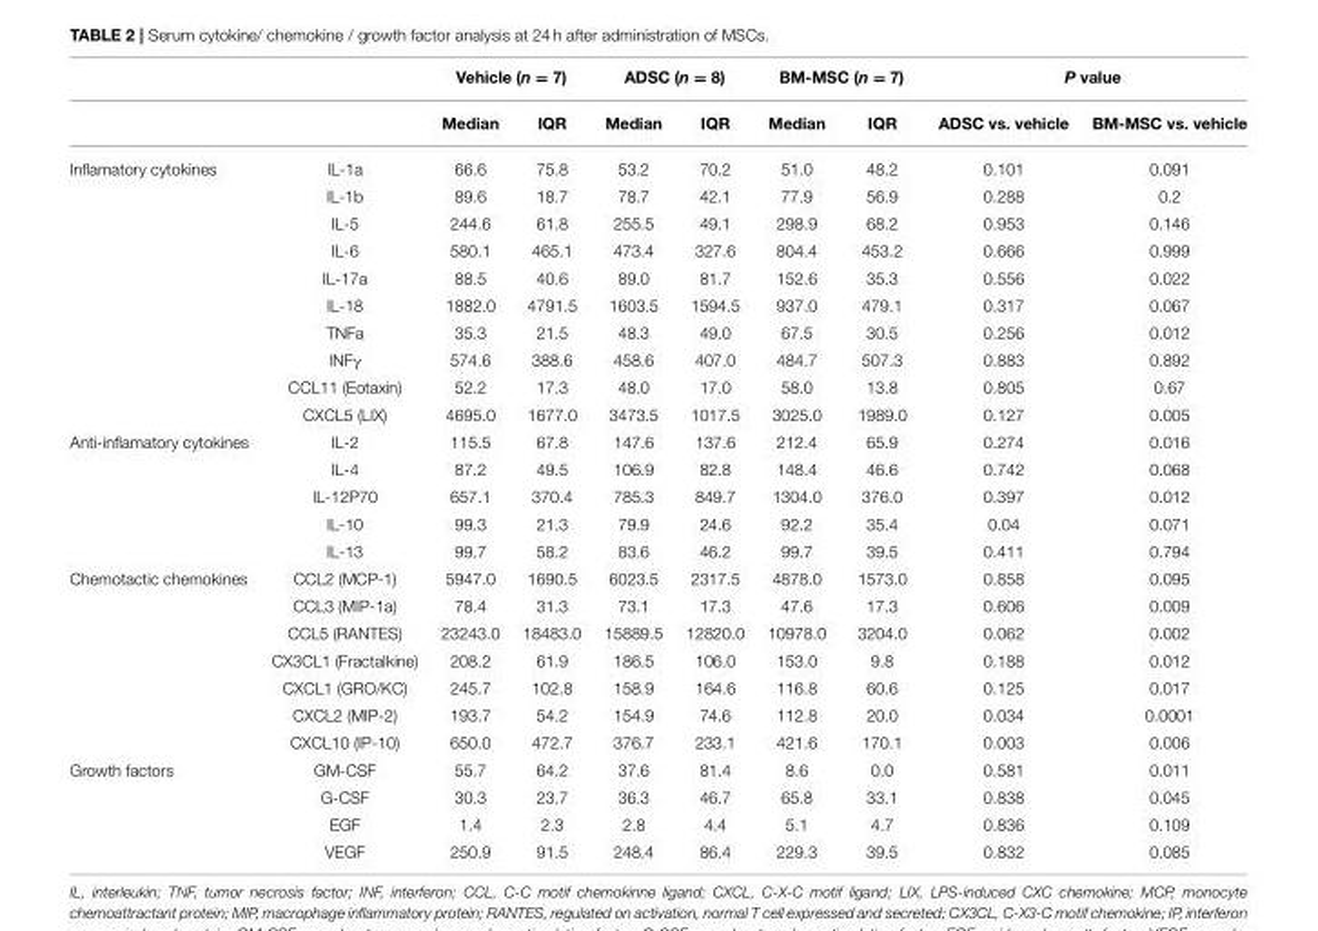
<table><thead><tr><td rowspan="2"></td><td rowspan="2"></td><td colspan="2">Vehicle (n = 7)</td><td colspan="2">ADSC (n = 8)</td><td colspan="2">BM-MSC (n = 7)</td><td colspan="2">P value</td></tr><tr><td>Median</td><td>IQR</td><td>Median</td><td>IQR</td><td>Median</td><td>IQR</td><td>ADSC vs. vehicle</td><td>BM-MSC vs. vehicle</td></tr></thead><tbody><tr><td rowspan="10">Inflamatory cytokines</td><td>IL-1a</td><td>66.6</td><td>75.8</td><td>53.2</td><td>70.2</td><td>51.0</td><td>48.2</td><td>0.101</td><td>0.091</td></tr><tr><td>IL-1b</td><td>89.6</td><td>18.7</td><td>78.7</td><td>42.1</td><td>77.9</td><td>56.9</td><td>0.288</td><td>0.2</td></tr><tr><td>IL-5</td><td>244.6</td><td>61.8</td><td>255.5</td><td>49.1</td><td>298.9</td><td>68.2</td><td>0.953</td><td>0.146</td></tr><tr><td>IL-6</td><td>580.1</td><td>465.1</td><td>473.4</td><td>327.6</td><td>804.4</td><td>453.2</td><td>0.666</td><td>0.999</td></tr><tr><td>IL-17a</td><td>88.5</td><td>40.6</td><td>89.0</td><td>81.7</td><td>152.6</td><td>35.3</td><td>0.556</td><td>0.022</td></tr><tr><td>IL-18</td><td>1882.0</td><td>4791.5</td><td>1603.5</td><td>1594.5</td><td>937.0</td><td>479.1</td><td>0.317</td><td>0.067</td></tr><tr><td>TNFa</td><td>35.3</td><td>21.5</td><td>48.3</td><td>49.0</td><td>67.5</td><td>30.5</td><td>0.256</td><td>0.012</td></tr><tr><td>INFγ</td><td>574.6</td><td>388.6</td><td>458.6</td><td>407.0</td><td>484.7</td><td>507.3</td><td>0.883</td><td>0.892</td></tr><tr><td>CCL11 (Eotaxin)</td><td>52.2</td><td>17.3</td><td>48.0</td><td>17.0</td><td>58.0</td><td>13.8</td><td>0.805</td><td>0.67</td></tr><tr><td>CXCL5 (LIX)</td><td>4695.0</td><td>1677.0</td><td>3473.5</td><td>1017.5</td><td>3025.0</td><td>1989.0</td><td>0.127</td><td>0.005</td></tr><tr><td rowspan="5">Anti-inflamatory cytokines</td><td>IL-2</td><td>115.5</td><td>67.8</td><td>147.6</td><td>137.6</td><td>212.4</td><td>65.9</td><td>0.274</td><td>0.016</td></tr><tr><td>IL-4</td><td>87.2</td><td>49.5</td><td>106.9</td><td>82.8</td><td>148.4</td><td>46.6</td><td>0.742</td><td>0.068</td></tr><tr><td>IL-12P70</td><td>657.1</td><td>370.4</td><td>785.3</td><td>849.7</td><td>1304.0</td><td>376.0</td><td>0.397</td><td>0.012</td></tr><tr><td>IL-10</td><td>99.3</td><td>21.3</td><td>79.9</td><td>24.6</td><td>92.2</td><td>35.4</td><td>0.04</td><td>0.071</td></tr><tr><td>IL-13</td><td>99.7</td><td>58.2</td><td>83.6</td><td>46.2</td><td>99.7</td><td>39.5</td><td>0.411</td><td>0.794</td></tr><tr><td rowspan="7">Chemotactic chemokines</td><td>CCL2 (MCP-1)</td><td>5947.0</td><td>1690.5</td><td>6023.5</td><td>2317.5</td><td>4878.0</td><td>1573.0</td><td>0.858</td><td>0.095</td></tr><tr><td>CCL3 (MIP-1a)</td><td>78.4</td><td>31.3</td><td>73.1</td><td>17.3</td><td>47.6</td><td>17.3</td><td>0.606</td><td>0.009</td></tr><tr><td>CCL5 (RANTES)</td><td>23243.0</td><td>18483.0</td><td>15889.5</td><td>12820.0</td><td>10978.0</td><td>3204.0</td><td>0.062</td><td>0.002</td></tr><tr><td>CX3CL1 (Fractalkine)</td><td>208.2</td><td>61.9</td><td>186.5</td><td>106.0</td><td>153.0</td><td>9.8</td><td>0.188</td><td>0.012</td></tr><tr><td>CXCL1 (GRO/KC)</td><td>245.7</td><td>102.8</td><td>158.9</td><td>164.6</td><td>116.8</td><td>60.6</td><td>0.125</td><td>0.017</td></tr><tr><td>CXCL2 (MIP-2)</td><td>193.7</td><td>54.2</td><td>154.9</td><td>74.6</td><td>112.8</td><td>20.0</td><td>0.034</td><td>0.0001</td></tr><tr><td>CXCL10 (IP-10)</td><td>650.0</td><td>472.7</td><td>376.7</td><td>233.1</td><td>421.6</td><td>170.1</td><td>0.003</td><td>0.006</td></tr><tr><td rowspan="4">Growth factors</td><td>GM-CSF</td><td>55.7</td><td>64.2</td><td>37.6</td><td>81.4</td><td>8.6</td><td>0.0</td><td>0.581</td><td>0.011</td></tr><tr><td>G-CSF</td><td>30.3</td><td>23.7</td><td>36.3</td><td>46.7</td><td>65.8</td><td>33.1</td><td>0.838</td><td>0.045</td></tr><tr><td>EGF</td><td>1.4</td><td>2.3</td><td>2.8</td><td>4.4</td><td>5.1</td><td>4.7</td><td>0.836</td><td>0.109</td></tr><tr><td>VEGF</td><td>250.9</td><td>91.5</td><td>248.4</td><td>86.4</td><td>229.3</td><td>39.5</td><td>0.832</td><td>0.085</td></tr></tbody></table>